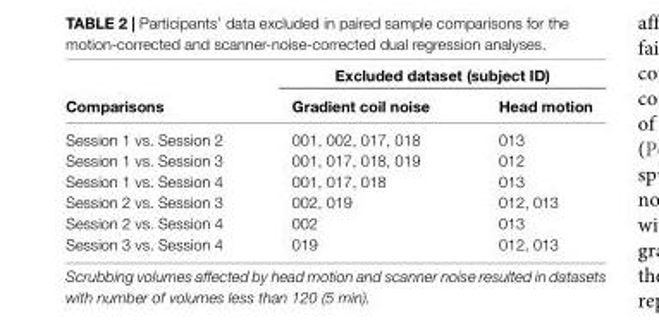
<table><thead><tr><td rowspan="2">Comparisons</td><td colspan="2">Excluded dataset (subject ID)</td></tr><tr><td>Gradient coil noise</td><td>Head motion</td></tr></thead><tbody><tr><td>Session 1 vs. Session 2</td><td>001, 002, 017, 018</td><td>013</td></tr><tr><td>Session 1 vs. Session 3</td><td>001, 017, 018, 019</td><td>012</td></tr><tr><td>Session 1 vs. Session 4</td><td>001, 017, 018</td><td>013</td></tr><tr><td>Session 2 vs. Session 3</td><td>002, 019</td><td>012, 013</td></tr><tr><td>Session 2 vs. Session 4</td><td>002</td><td>013</td></tr><tr><td>Session 3 vs. Session 4</td><td>019</td><td>012, 013</td></tr></tbody></table>